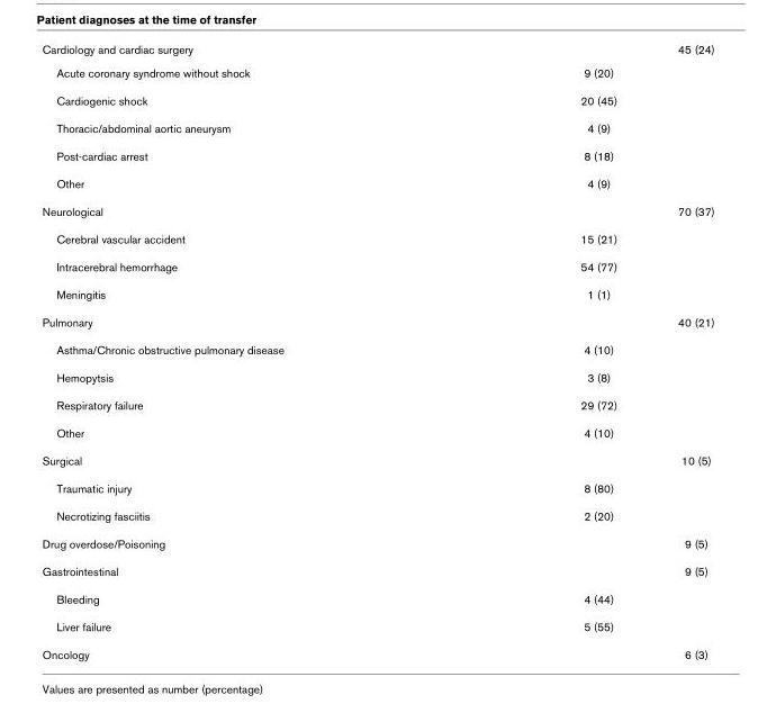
<table><tbody><tr><td>Cardiology and cardiac surgery</td><td></td><td>45 (24)</td></tr><tr><td>Acute coronary syndrome without shock</td><td>9 (20)</td><td></td></tr><tr><td>Cardiogenic shock</td><td>20 (45)</td><td></td></tr><tr><td>Thoracic/abdominal aortic aneurysm</td><td>4 (9)</td><td></td></tr><tr><td>Post-cardiac arrest</td><td>8 (18)</td><td></td></tr><tr><td>Other</td><td>4 (9)</td><td></td></tr><tr><td>Neurological</td><td></td><td>70 (37)</td></tr><tr><td>Cerebral vascular accident</td><td>15 (21)</td><td></td></tr><tr><td>Intracerebral hemorrhage</td><td>54 (77)</td><td></td></tr><tr><td>Meningitis</td><td>1 (1)</td><td></td></tr><tr><td>Pulmonary</td><td></td><td>40 (21)</td></tr><tr><td>Asthma/Chronic obstructive pulmonary disease</td><td>4 (10)</td><td></td></tr><tr><td>Hemopytsis</td><td>3 (8)</td><td></td></tr><tr><td>Respiratory failure</td><td>29 (72)</td><td></td></tr><tr><td>Other</td><td>4 (10)</td><td></td></tr><tr><td>Surgical</td><td></td><td>10 (5)</td></tr><tr><td>Traumatic injury</td><td>8 (80)</td><td></td></tr><tr><td>Necrotizing fasciitis</td><td>2 (20)</td><td></td></tr><tr><td>Drug overdose/Poisoning</td><td></td><td>9 (5)</td></tr><tr><td>Gastrointestinal</td><td></td><td>9 (5)</td></tr><tr><td>Bleeding</td><td>4 (44)</td><td></td></tr><tr><td>Liver failure</td><td>5 (55)</td><td></td></tr><tr><td>Oncology</td><td></td><td>6 (3)</td></tr></tbody></table>